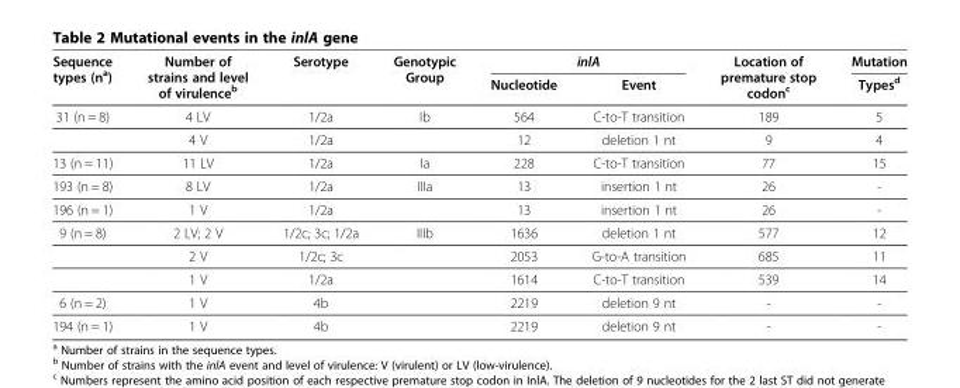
<table><thead><tr><td rowspan="2">Sequence types (n<sup>a</sup>)</td><td rowspan="2">Number of strains and level of virulence<sup>b</sup></td><td rowspan="2">Serotype</td><td rowspan="2">Genotypic Group</td><td colspan="2">inlA</td><td rowspan="2">Location of premature stop codon<sup>c</sup></td><td rowspan="2">Mutation Types<sup>d</sup></td></tr><tr><td>Nucleotide</td><td>Event</td></tr></thead><tbody><tr><td rowspan="2">31 (n = 8)</td><td>4 LV</td><td>1/2a</td><td>Ib</td><td>564</td><td>C-to-T transition</td><td>189</td><td>5</td></tr><tr><td>4 V</td><td>1/2a</td><td></td><td>12</td><td>deletion 1 nt</td><td>9</td><td>4</td></tr><tr><td>13 (n = 11)</td><td>11 LV</td><td>1/2a</td><td>Ia</td><td>228</td><td>C-to-T transition</td><td>77</td><td>15</td></tr><tr><td>193 (n = 8)</td><td>8 LV</td><td>1/2a</td><td>IIIa</td><td>13</td><td>insertion 1 nt</td><td>26</td><td>-</td></tr><tr><td>196 (n = 1)</td><td>1 V</td><td>1/2a</td><td></td><td>13</td><td>insertion 1 nt</td><td>26</td><td>-</td></tr><tr><td rowspan="3">9 (n = 8)</td><td>2 LV; 2 V</td><td>1/2c; 3c; 1/2a</td><td>IIIb</td><td>1636</td><td>deletion 1 nt</td><td>577</td><td>12</td></tr><tr><td>2 V</td><td>1/2c; 3c</td><td></td><td>2053</td><td>G-to-A transition</td><td>685</td><td>11</td></tr><tr><td>1 V</td><td>1/2a</td><td></td><td>1614</td><td>C-to-T transition</td><td>539</td><td>14</td></tr><tr><td>6 (n = 2)</td><td>1 V</td><td>4b</td><td></td><td>2219</td><td>deletion 9 nt</td><td>-</td><td>-</td></tr><tr><td>194 (n = 1)</td><td>1 V</td><td>4b</td><td></td><td>2219</td><td>deletion 9 nt</td><td>-</td><td>-</td></tr></tbody></table>